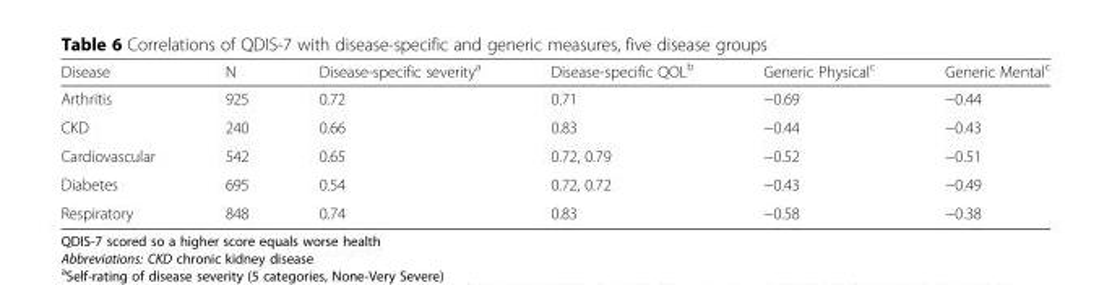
<table><thead><tr><td>Disease</td><td>N</td><td>Disease-specific severity<sup>a</sup></td><td>Disease-specific QOL<sup>b</sup></td><td>Generic Physical<sup>c</sup></td><td>Generic Mental<sup>c</sup></td></tr></thead><tbody><tr><td>Arthritis</td><td>925</td><td>0.72</td><td>0.71</td><td>−0.69</td><td>−0.44</td></tr><tr><td>CKD</td><td>240</td><td>0.66</td><td>0.83</td><td>−0.44</td><td>−0.43</td></tr><tr><td>Cardiovascular</td><td>542</td><td>0.65</td><td>0.72, 0.79</td><td>−0.52</td><td>−0.51</td></tr><tr><td>Diabetes</td><td>695</td><td>0.54</td><td>0.72, 0.72</td><td>−0.43</td><td>−0.49</td></tr><tr><td>Respiratory</td><td>848</td><td>0.74</td><td>0.83</td><td>−0.58</td><td>−0.38</td></tr></tbody></table>